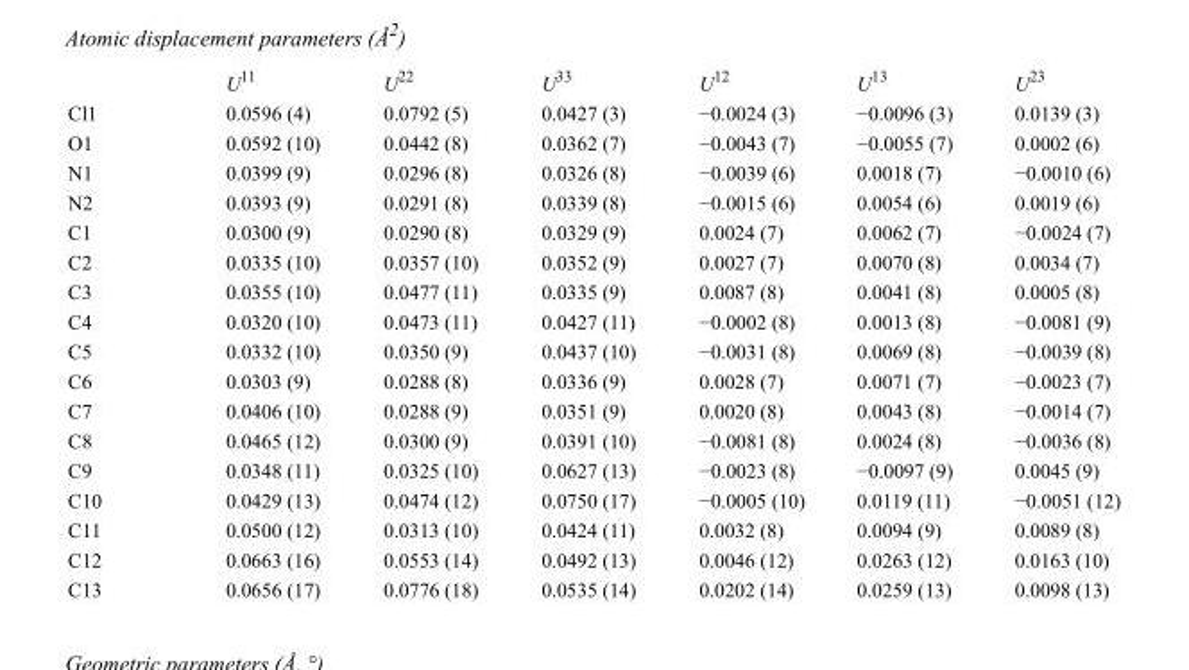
<table><thead><tr><td></td><td>U<sup>11</sup></td><td>U<sup>22</sup></td><td>U<sup>33</sup></td><td>U<sup>12</sup></td><td>U<sup>13</sup></td><td>U<sup>23</sup></td></tr></thead><tbody><tr><td>Cl1</td><td>0.0596 (4)</td><td>0.0792 (5)</td><td>0.0427 (3)</td><td>−0.0024 (3)</td><td>−0.0096 (3)</td><td>0.0139 (3)</td></tr><tr><td>O1</td><td>0.0592 (10)</td><td>0.0442 (8)</td><td>0.0362 (7)</td><td>−0.0043 (7)</td><td>−0.0055 (7)</td><td>0.0002 (6)</td></tr><tr><td>N1</td><td>0.0399 (9)</td><td>0.0296 (8)</td><td>0.0326 (8)</td><td>−0.0039 (6)</td><td>0.0018 (7)</td><td>−0.0010 (6)</td></tr><tr><td>N2</td><td>0.0393 (9)</td><td>0.0291 (8)</td><td>0.0339 (8)</td><td>−0.0015 (6)</td><td>0.0054 (6)</td><td>0.0019 (6)</td></tr><tr><td>C1</td><td>0.0300 (9)</td><td>0.0290 (8)</td><td>0.0329 (9)</td><td>0.0024 (7)</td><td>0.0062 (7)</td><td>−0.0024 (7)</td></tr><tr><td>C2</td><td>0.0335 (10)</td><td>0.0357 (10)</td><td>0.0352 (9)</td><td>0.0027 (7)</td><td>0.0070 (8)</td><td>0.0034 (7)</td></tr><tr><td>C3</td><td>0.0355 (10)</td><td>0.0477 (11)</td><td>0.0335 (9)</td><td>0.0087 (8)</td><td>0.0041 (8)</td><td>0.0005 (8)</td></tr><tr><td>C4</td><td>0.0320 (10)</td><td>0.0473 (11)</td><td>0.0427 (11)</td><td>−0.0002 (8)</td><td>0.0013 (8)</td><td>−0.0081 (9)</td></tr><tr><td>C5</td><td>0.0332 (10)</td><td>0.0350 (9)</td><td>0.0437 (10)</td><td>−0.0031 (8)</td><td>0.0069 (8)</td><td>−0.0039 (8)</td></tr><tr><td>C6</td><td>0.0303 (9)</td><td>0.0288 (8)</td><td>0.0336 (9)</td><td>0.0028 (7)</td><td>0.0071 (7)</td><td>−0.0023 (7)</td></tr><tr><td>C7</td><td>0.0406 (10)</td><td>0.0288 (9)</td><td>0.0351 (9)</td><td>0.0020 (8)</td><td>0.0043 (8)</td><td>−0.0014 (7)</td></tr><tr><td>C8</td><td>0.0465 (12)</td><td>0.0300 (9)</td><td>0.0391 (10)</td><td>−0.0081 (8)</td><td>0.0024 (8)</td><td>−0.0036 (8)</td></tr><tr><td>C9</td><td>0.0348 (11)</td><td>0.0325 (10)</td><td>0.0627 (13)</td><td>−0.0023 (8)</td><td>−0.0097 (9)</td><td>0.0045 (9)</td></tr><tr><td>C10</td><td>0.0429 (13)</td><td>0.0474 (12)</td><td>0.0750 (17)</td><td>−0.0005 (10)</td><td>0.0119 (11)</td><td>−0.0051 (12)</td></tr><tr><td>C11</td><td>0.0500 (12)</td><td>0.0313 (10)</td><td>0.0424 (11)</td><td>0.0032 (8)</td><td>0.0094 (9)</td><td>0.0089 (8)</td></tr><tr><td>C12</td><td>0.0663 (16)</td><td>0.0553 (14)</td><td>0.0492 (13)</td><td>0.0046 (12)</td><td>0.0263 (12)</td><td>0.0163 (10)</td></tr><tr><td>C13</td><td>0.0656 (17)</td><td>0.0776 (18)</td><td>0.0535 (14)</td><td>0.0202 (14)</td><td>0.0259 (13)</td><td>0.0098 (13)</td></tr></tbody></table>